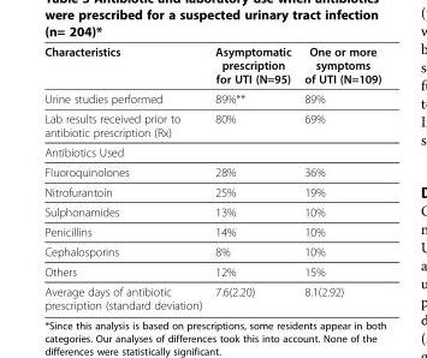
<table><thead><tr><td>Characteristics</td><td>Asymptomatic prescription for UTI (N=95)</td><td>One or more symptoms of UTI (N=109)</td></tr></thead><tbody><tr><td>Urine studies performed</td><td>89%**</td><td>89%</td></tr><tr><td>Lab results received prior to antibiotic prescription (Rx)</td><td>80%</td><td>69%</td></tr><tr><td colspan="3">Antibiotics Used</td></tr><tr><td>Fluoroquinolones</td><td>28%</td><td>36%</td></tr><tr><td>Nitrofurantoin</td><td>25%</td><td>19%</td></tr><tr><td>Sulphonamides</td><td>13%</td><td>10%</td></tr><tr><td>Penicillins</td><td>14%</td><td>10%</td></tr><tr><td>Cephalosporins</td><td>8%</td><td>10%</td></tr><tr><td>Others</td><td>12%</td><td>15%</td></tr><tr><td>Average days of antibiotic prescription (standard deviation)</td><td>7.6(2.20)</td><td>8.1(2.92)</td></tr></tbody></table>